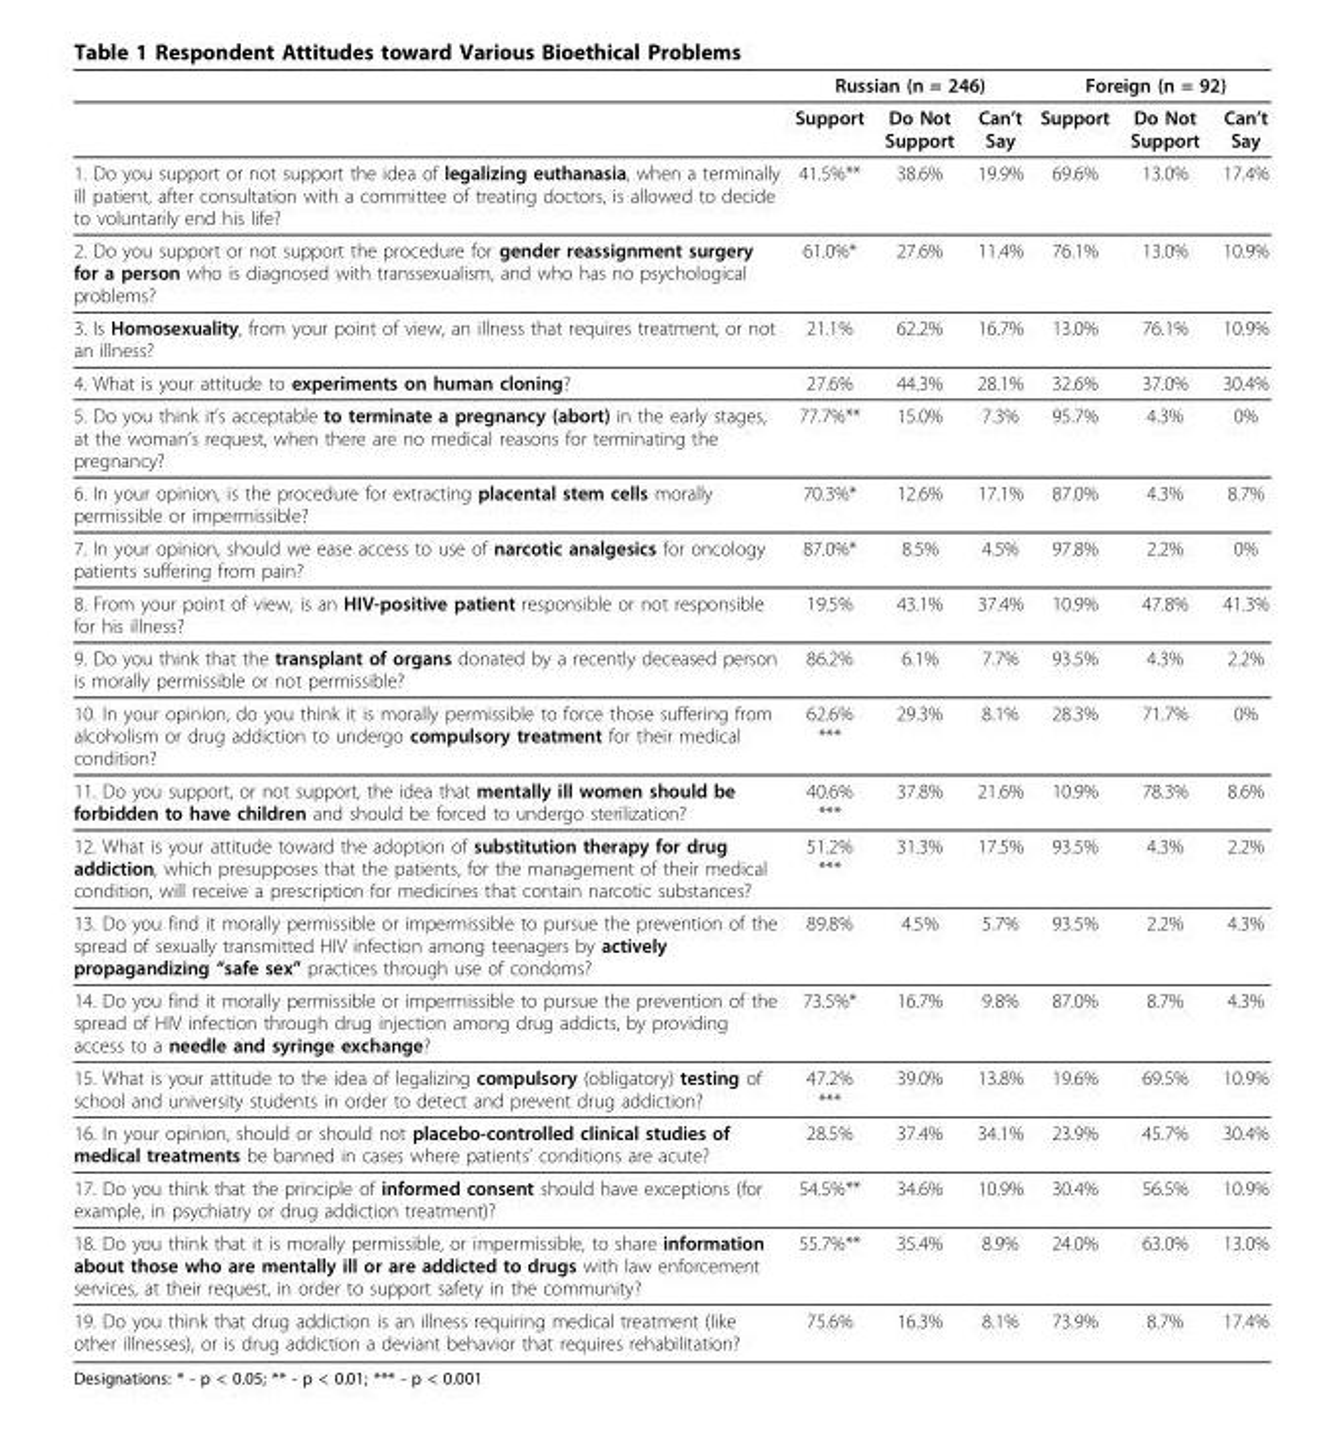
<table><thead><tr><td rowspan="2"></td><td colspan="3">Russian (n = 246)</td><td colspan="3">Foreign (n = 92)</td></tr><tr><td>Support</td><td>Do Not Support</td><td>Can’t Say</td><td>Support</td><td>Do Not Support</td><td>Can’t Say</td></tr></thead><tbody><tr><td>1. Do you support or not support the idea of legalizing euthanasia, when a terminally ill patient, after consultation with a committee of treating doctors, is allowed to decide to voluntarily end his life?</td><td>41.5%**</td><td>38.6%</td><td>19.9%</td><td>69.6%</td><td>13.0%</td><td>17.4%</td></tr><tr><td>2. Do you support or not support the procedure for gender reassignment surgery for a person who is diagnosed with transsexualism, and who has no psychological problems?</td><td>61.0%*</td><td>27.6%</td><td>11.4%</td><td>76.1%</td><td>13.0%</td><td>10.9%</td></tr><tr><td>3. Is Homosexuality, from your point of view, an illness that requires treatment, or not an illness?</td><td>21.1%</td><td>62.2%</td><td>16.7%</td><td>13.0%</td><td>76.1%</td><td>10.9%</td></tr><tr><td>4. What is your attitude to experiments on human cloning?</td><td>27.6%</td><td>44.3%</td><td>28.1%</td><td>32.6%</td><td>37.0%</td><td>30.4%</td></tr><tr><td>5. Do you think it’s acceptable to terminate a pregnancy (abort) in the early stages, at the woman’s request, when there are no medical reasons for terminating the pregnancy?</td><td>77.7%**</td><td>15.0%</td><td>7.3%</td><td>95.7%</td><td>4.3%</td><td>0%</td></tr><tr><td>6. In your opinion, is the procedure for extracting placental stem cells morally permissible or impermissible?</td><td>70.3%*</td><td>12.6%</td><td>17.1%</td><td>87.0%</td><td>4.3%</td><td>8.7%</td></tr><tr><td>7. In your opinion, should we ease access to use of narcotic analgesics for oncology patients suffering from pain?</td><td>87.0%*</td><td>8.5%</td><td>4.5%</td><td>97.8%</td><td>2.2%</td><td>0%</td></tr><tr><td>8. From your point of view, is an HIV-positive patient responsible or not responsible for his illness?</td><td>19.5%</td><td>43.1%</td><td>37.4%</td><td>10.9%</td><td>47.8%</td><td>41.3%</td></tr><tr><td>9. Do you think that the transplant of organs donated by a recently deceased person is morally permissible or not permissible?</td><td>86.2%</td><td>6.1%</td><td>7.7%</td><td>93.5%</td><td>4.3%</td><td>2.2%</td></tr><tr><td>10. In your opinion, do you think it is morally permissible to force those suffering from alcoholism or drug addiction to undergo compulsory treatment for their medical condition?</td><td>62.6% ***</td><td>29.3%</td><td>8.1%</td><td>28.3%</td><td>71.7%</td><td>0%</td></tr><tr><td>11. Do you support, or not support, the idea that mentally ill women should be forbidden to have children and should be forced to undergo sterilization?</td><td>40.6% ***</td><td>37.8%</td><td>21.6%</td><td>10.9%</td><td>78.3%</td><td>8.6%</td></tr><tr><td>12. What is your attitude toward the adoption of substitution therapy for drug addiction, which presupposes that the patients, for the management of their medical condition, will receive a prescription for medicines that contain narcotic substances?</td><td>51.2% ***</td><td>31.3%</td><td>17.5%</td><td>93.5%</td><td>4.3%</td><td>2.2%</td></tr><tr><td>13. Do you find it morally permissible or impermissible to pursue the prevention of the spread of sexually transmitted HIV infection among teenagers by actively propagandizing “safe sex” practices through use of condoms?</td><td>89.8%</td><td>4.5%</td><td>5.7%</td><td>93.5%</td><td>2.2%</td><td>4.3%</td></tr><tr><td>14. Do you find it morally permissible or impermissible to pursue the prevention of the spread of HIV infection through drug injection among drug addicts, by providing access to a needle and syringe exchange?</td><td>73.5%*</td><td>16.7%</td><td>9.8%</td><td>87.0%</td><td>8.7%</td><td>4.3%</td></tr><tr><td>15. What is your attitude to the idea of legalizing compulsory (obligatory) testing of school and university students in order to detect and prevent drug addiction?</td><td>47.2% ***</td><td>39.0%</td><td>13.8%</td><td>19.6%</td><td>69.5%</td><td>10.9%</td></tr><tr><td>16. In your opinion, should or should not placebo-controlled clinical studies of medical treatments be banned in cases where patients’ conditions are acute?</td><td>28.5%</td><td>37.4%</td><td>34.1%</td><td>23.9%</td><td>45.7%</td><td>30.4%</td></tr><tr><td>17. Do you think that the principle of informed consent should have exceptions (for example, in psychiatry or drug addiction treatment)?</td><td>54.5%**</td><td>34.6%</td><td>10.9%</td><td>30.4%</td><td>56.5%</td><td>10.9%</td></tr><tr><td>18. Do you think that it is morally permissible, or impermissible, to share information about those who are mentally ill or are addicted to drugs with law enforcement services, at their request, in order to support safety in the community?</td><td>55.7%**</td><td>35.4%</td><td>8.9%</td><td>24.0%</td><td>63.0%</td><td>13.0%</td></tr><tr><td>19. Do you think that drug addiction is an illness requiring medical treatment (like other illnesses), or is drug addiction a deviant behavior that requires rehabilitation?</td><td>75.6%</td><td>16.3%</td><td>8.1%</td><td>73.9%</td><td>8.7%</td><td>17.4%</td></tr></tbody></table>